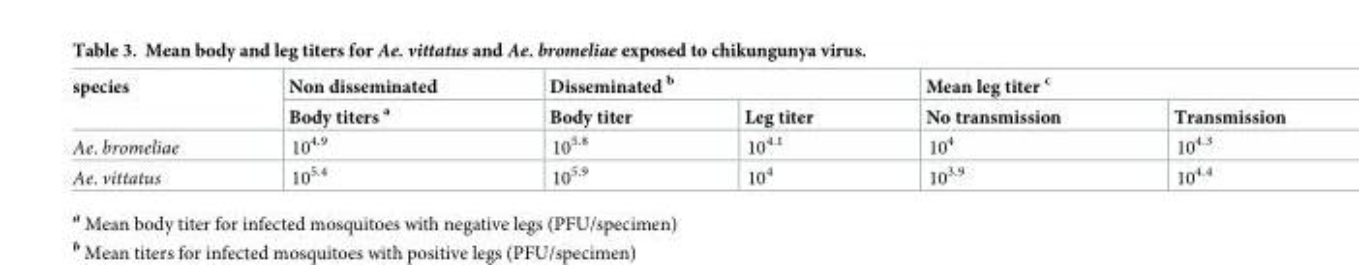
<table><thead><tr><td rowspan="2">species</td><td rowspan="2">Non disseminated Body titers <sup>a</sup></td><td colspan="2">Disseminated <sup>b</sup></td><td colspan="2">Mean leg titer <sup>c</sup></td></tr><tr><td>Body titer</td><td>Leg titer</td><td>No transmission</td><td>Transmission</td></tr></thead><tbody><tr><td>Ae. bromeliae</td><td>10<sup>4.9</sup></td><td>10<sup>5.8</sup></td><td>10<sup>4.1</sup></td><td>10<sup>4</sup></td><td>10<sup>4.3</sup></td></tr><tr><td>Ae. vittatus</td><td>10<sup>5.4</sup></td><td>10<sup>5.9</sup></td><td>10<sup>4</sup></td><td>10<sup>3.9</sup></td><td>10<sup>4.4</sup></td></tr></tbody></table>